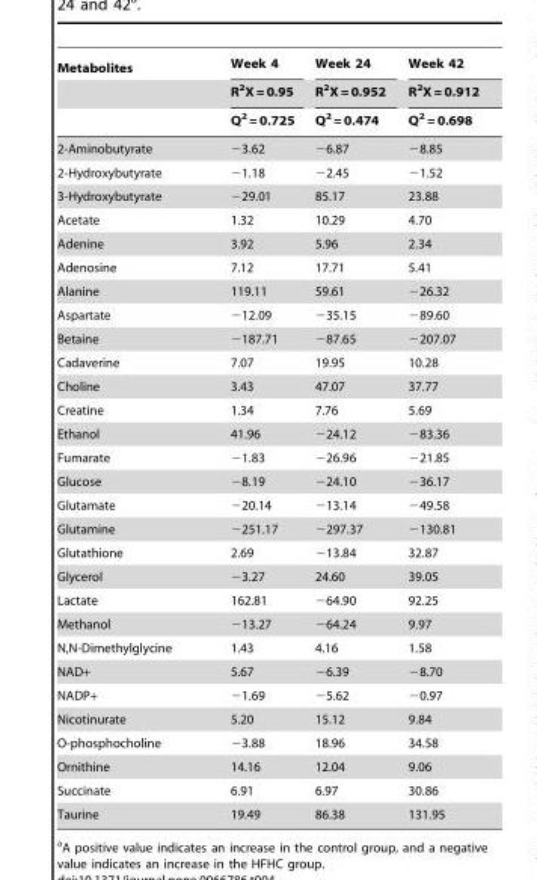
<table><thead><tr><td rowspan="3">Metabolites</td><td rowspan="3">Week 4 R<sup>2</sup>X = 0.95 Q<sup>2</sup> = 0.725</td><td rowspan="3">Week 24 R<sup>2</sup>X = 0.952 Q<sup>2</sup> = 0.474</td><td rowspan="3">Week 42 R<sup>2</sup>X = 0.912 Q<sup>2</sup> = 0.698</td></tr><tr></tr><tr></tr></thead><tbody><tr><td>2-Aminobutyrate</td><td>−3.62</td><td>−6.87</td><td>−8.85</td></tr><tr><td>2-Hydroxybutyrate</td><td>−1.18</td><td>−2.45</td><td>−1.52</td></tr><tr><td>3-Hydroxybutyrate</td><td>−29.01</td><td>85.17</td><td>23.88</td></tr><tr><td>Acetate</td><td>1.32</td><td>10.29</td><td>4.70</td></tr><tr><td>Adenine</td><td>3.92</td><td>5.96</td><td>2.34</td></tr><tr><td>Adenosine</td><td>7.12</td><td>17.71</td><td>5.41</td></tr><tr><td>Alanine</td><td>119.11</td><td>59.61</td><td>−26.32</td></tr><tr><td>Aspartate</td><td>−12.09</td><td>−35.15</td><td>−89.60</td></tr><tr><td>Betaine</td><td>−187.71</td><td>−87.65</td><td>−207.07</td></tr><tr><td>Cadaverine</td><td>7.07</td><td>19.95</td><td>10.28</td></tr><tr><td>Choline</td><td>3.43</td><td>47.07</td><td>37.77</td></tr><tr><td>Creatine</td><td>1.34</td><td>7.76</td><td>5.69</td></tr><tr><td>Ethanol</td><td>41.96</td><td>−24.12</td><td>−83.36</td></tr><tr><td>Fumarate</td><td>−1.83</td><td>−26.96</td><td>−21.85</td></tr><tr><td>Glucose</td><td>−8.19</td><td>−24.10</td><td>−36.17</td></tr><tr><td>Glutamate</td><td>−20.14</td><td>−13.14</td><td>−49.58</td></tr><tr><td>Glutamine</td><td>−251.17</td><td>−297.37</td><td>−130.81</td></tr><tr><td>Glutathione</td><td>2.69</td><td>−13.84</td><td>32.87</td></tr><tr><td>Glycerol</td><td>−3.27</td><td>24.60</td><td>39.05</td></tr><tr><td>Lactate</td><td>162.81</td><td>−64.90</td><td>92.25</td></tr><tr><td>Methanol</td><td>−13.27</td><td>−64.24</td><td>9.97</td></tr><tr><td>N,N-Dimethylglycine</td><td>1.43</td><td>4.16</td><td>1.58</td></tr><tr><td>NAD+</td><td>5.67</td><td>−6.39</td><td>−8.70</td></tr><tr><td>NADP+</td><td>−1.69</td><td>−5.62</td><td>−0.97</td></tr><tr><td>Nicotinurate</td><td>5.20</td><td>15.12</td><td>9.84</td></tr><tr><td>O-phosphocholine</td><td>−3.88</td><td>18.96</td><td>34.58</td></tr><tr><td>Ornithine</td><td>14.16</td><td>12.04</td><td>9.06</td></tr><tr><td>Succinate</td><td>6.91</td><td>6.97</td><td>30.86</td></tr><tr><td>Taurine</td><td>19.49</td><td>86.38</td><td>131.95</td></tr></tbody></table>